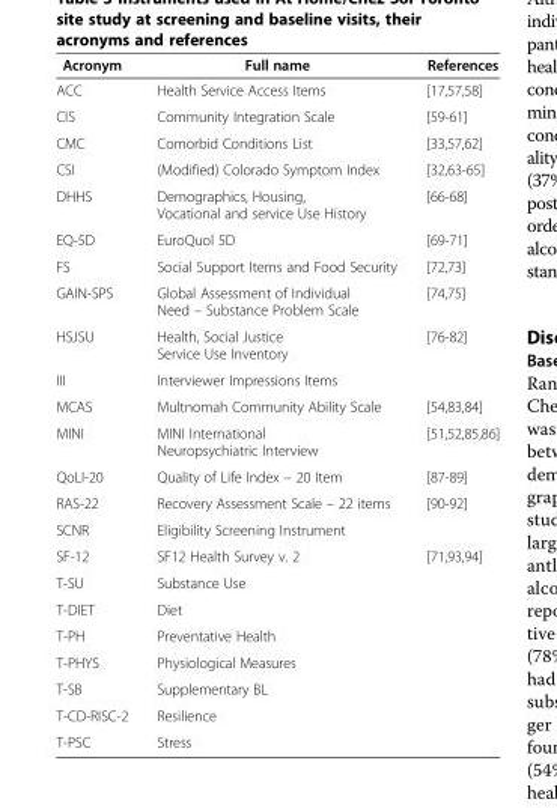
<table><thead><tr><td>Acronym</td><td>Full name</td><td>References</td></tr></thead><tbody><tr><td>ACC</td><td>Health Service Access Items</td><td>[17,57,58]</td></tr><tr><td>CIS</td><td>Community Integration Scale</td><td>[59-61]</td></tr><tr><td>CMC</td><td>Comorbid Conditions List</td><td>[33,57,62]</td></tr><tr><td>CSI</td><td>(Modified) Colorado Symptom Index</td><td>[32,63-65]</td></tr><tr><td>DHHS</td><td>Demographics, Housing, Vocational and service Use History</td><td>[66-68]</td></tr><tr><td>EQ-5D</td><td>EuroQuol 5D</td><td>[69-71]</td></tr><tr><td>FS</td><td>Social Support Items and Food Security</td><td>[72,73]</td></tr><tr><td>GAIN-SPS</td><td>Global Assessment of Individual Need – Substance Problem Scale</td><td>[74,75]</td></tr><tr><td>HSJSU</td><td>Health, Social Justice Service Use Inventory</td><td>[76-82]</td></tr><tr><td>III</td><td>Interviewer Impressions Items</td><td></td></tr><tr><td>MCAS</td><td>Multnomah Community Ability Scale</td><td>[54,83,84]</td></tr><tr><td>MINI</td><td>MINI International Neuropsychiatric Interview</td><td>[51,52,85,86]</td></tr><tr><td>QoLI-20</td><td>Quality of Life Index – 20 Item</td><td>[87-89]</td></tr><tr><td>RAS-22</td><td>Recovery Assessment Scale – 22 items</td><td>[90-92]</td></tr><tr><td>SCNR</td><td>Eligibility Screening Instrument</td><td></td></tr><tr><td>SF-12</td><td>SF12 Health Survey v. 2</td><td>[71,93,94]</td></tr><tr><td>T-SU</td><td>Substance Use</td><td></td></tr><tr><td>T-DIET</td><td>Diet</td><td></td></tr><tr><td>T-PH</td><td>Preventative Health</td><td></td></tr><tr><td>T-PHYS</td><td>Physiological Measures</td><td></td></tr><tr><td>T-SB</td><td>Supplementary BL</td><td></td></tr><tr><td>T-CD-RISC-2</td><td>Resilience</td><td></td></tr><tr><td>T-PSC</td><td>Stress</td><td></td></tr></tbody></table>